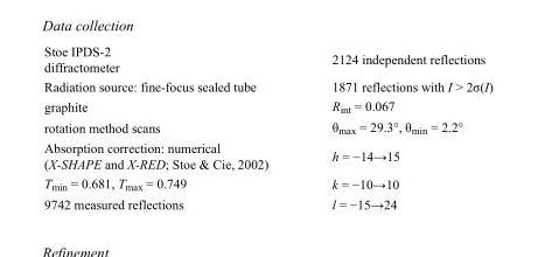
<table><tbody><tr><td>Stoe IPDS-2 diffractometer</td><td>2124 independent reflections</td></tr><tr><td>Radiation source: fine-focus sealed tube</td><td>1871 reflections with I &gt; 2σ(I)</td></tr><tr><td>graphite</td><td>R<sub>int</sub> = 0.067</td></tr><tr><td>rotation method scans</td><td>θ<sub>max</sub> = 29.3°, θ<sub>min</sub> = 2.2°</td></tr><tr><td>Absorption correction: numerical (X-SHAPE and X-RED; Stoe &amp; Cie, 2002)</td><td>h = −14→15</td></tr><tr><td>T<sub>min</sub> = 0.681, T<sub>max</sub> = 0.749</td><td>k = −10→10</td></tr><tr><td>9742 measured reflections</td><td>l = −15→24</td></tr></tbody></table>